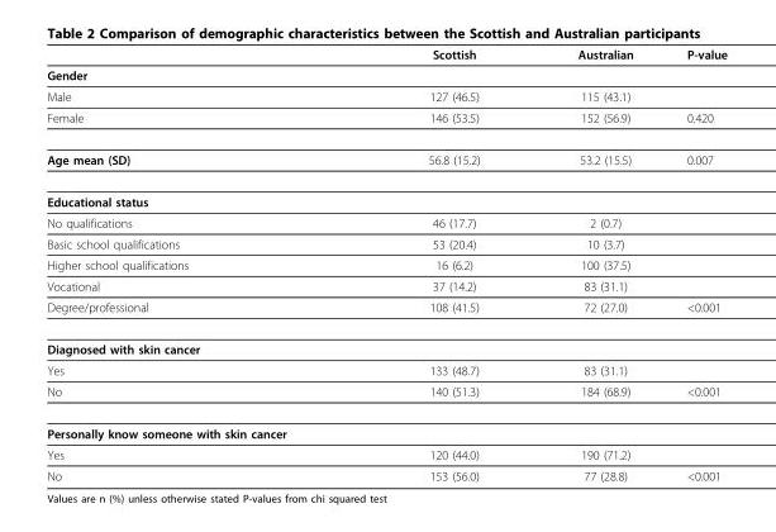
<table><thead><tr><td></td><td>Scottish</td><td>Australian</td><td>P-value</td></tr></thead><tbody><tr><td colspan="4">Gender</td></tr><tr><td>Male</td><td>127 (46.5)</td><td>115 (43.1)</td><td></td></tr><tr><td>Female</td><td>146 (53.5)</td><td>152 (56.9)</td><td>0.420</td></tr><tr><td>Age mean (SD)</td><td>56.8 (15.2)</td><td>53.2 (15.5)</td><td>0.007</td></tr><tr><td colspan="4">Educational status</td></tr><tr><td>No qualifications</td><td>46 (17.7)</td><td>2 (0.7)</td><td></td></tr><tr><td>Basic school qualifications</td><td>53 (20.4)</td><td>10 (3.7)</td><td></td></tr><tr><td>Higher school qualifications</td><td>16 (6.2)</td><td>100 (37.5)</td><td></td></tr><tr><td>Vocational</td><td>37 (14.2)</td><td>83 (31.1)</td><td></td></tr><tr><td>Degree/professional</td><td>108 (41.5)</td><td>72 (27.0)</td><td>&lt;0.001</td></tr><tr><td colspan="4">Diagnosed with skin cancer</td></tr><tr><td>Yes</td><td>133 (48.7)</td><td>83 (31.1)</td><td></td></tr><tr><td>No</td><td>140 (51.3)</td><td>184 (68.9)</td><td>&lt;0.001</td></tr><tr><td colspan="4">Personally know someone with skin cancer</td></tr><tr><td>Yes</td><td>120 (44.0)</td><td>190 (71.2)</td><td></td></tr><tr><td>No</td><td>153 (56.0)</td><td>77 (28.8)</td><td>&lt;0.001</td></tr></tbody></table>